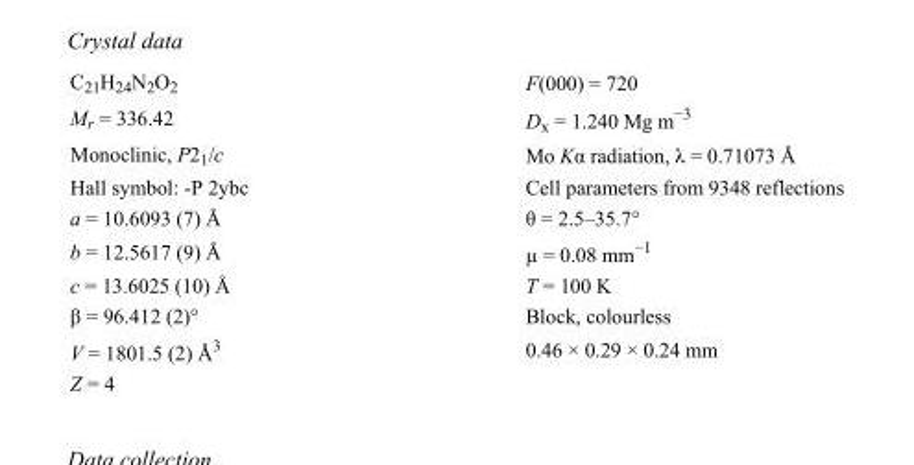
<table><tbody><tr><td>C<sub>21</sub>H<sub>24</sub>N<sub>2</sub>O<sub>2</sub></td><td>F(000) = 720</td></tr><tr><td>M<sub>r</sub> = 336.42</td><td>D<sub>x</sub> = 1.240 Mg m<sup>−3</sup></td></tr><tr><td>Monoclinic, P2<sub>1</sub>/c</td><td>Mo Kα radiation, λ = 0.71073 Å</td></tr><tr><td>Hall symbol: -P 2ybc</td><td>Cell parameters from 9348 reflections</td></tr><tr><td>a = 10.6093 (7) Å</td><td>θ = 2.5–35.7°</td></tr><tr><td>b = 12.5617 (9) Å</td><td>µ = 0.08 mm<sup>−1</sup></td></tr><tr><td>c = 13.6025 (10) Å</td><td>T = 100 K</td></tr><tr><td>β = 96.412 (2)°</td><td>Block, colourless</td></tr><tr><td>V = 1801.5 (2) Å<sup>3</sup></td><td>0.46 × 0.29 × 0.24 mm</td></tr><tr><td>Z = 4</td><td></td></tr></tbody></table>